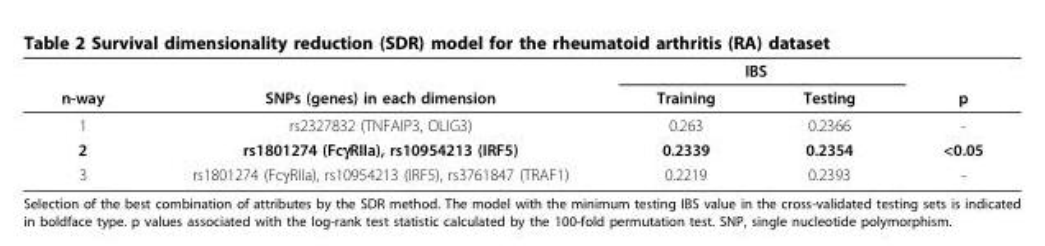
<table><thead><tr><td rowspan="2">n-way</td><td rowspan="2">SNPs (genes) in each dimension</td><td colspan="2">IBS</td><td rowspan="2">p</td></tr><tr><td>Training</td><td>Testing</td></tr></thead><tbody><tr><td>1</td><td>rs2327832 (TNFAIP3, OLIG3)</td><td>0.263</td><td>0.2366</td><td>-</td></tr><tr><td>2</td><td>rs1801274 (FcγRIIa), rs10954213 (IRF5)</td><td>0.2339</td><td>0.2354</td><td>&lt;0.05</td></tr><tr><td>3</td><td>rs1801274 (FcγRIIa), rs10954213 (IRF5), rs3761847 (TRAF1)</td><td>0.2219</td><td>0.2393</td><td>-</td></tr></tbody></table>